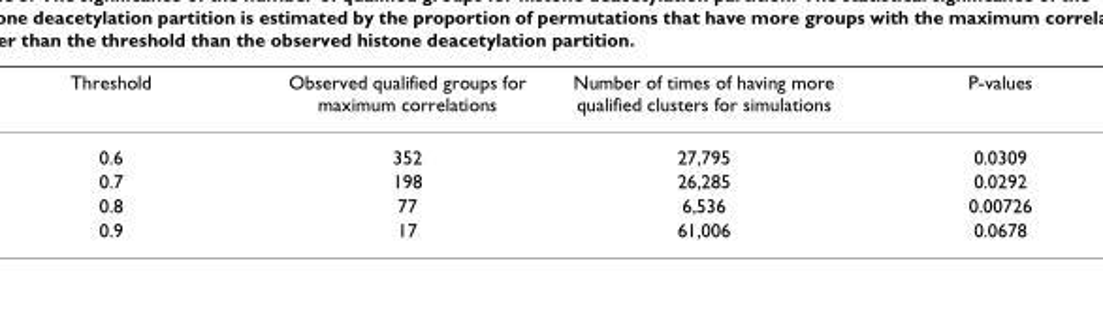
<table><thead><tr><td>Threshold</td><td>Observed qualified groups for maximum correlations</td><td>Number of times of having more qualified clusters for simulations</td><td>P-values</td></tr></thead><tbody><tr><td>0.6</td><td>352</td><td>27,795</td><td>0.0309</td></tr><tr><td>0.7</td><td>198</td><td>26,285</td><td>0.0292</td></tr><tr><td>0.8</td><td>77</td><td>6,536</td><td>0.00726</td></tr><tr><td>0.9</td><td>17</td><td>61,006</td><td>0.0678</td></tr></tbody></table>